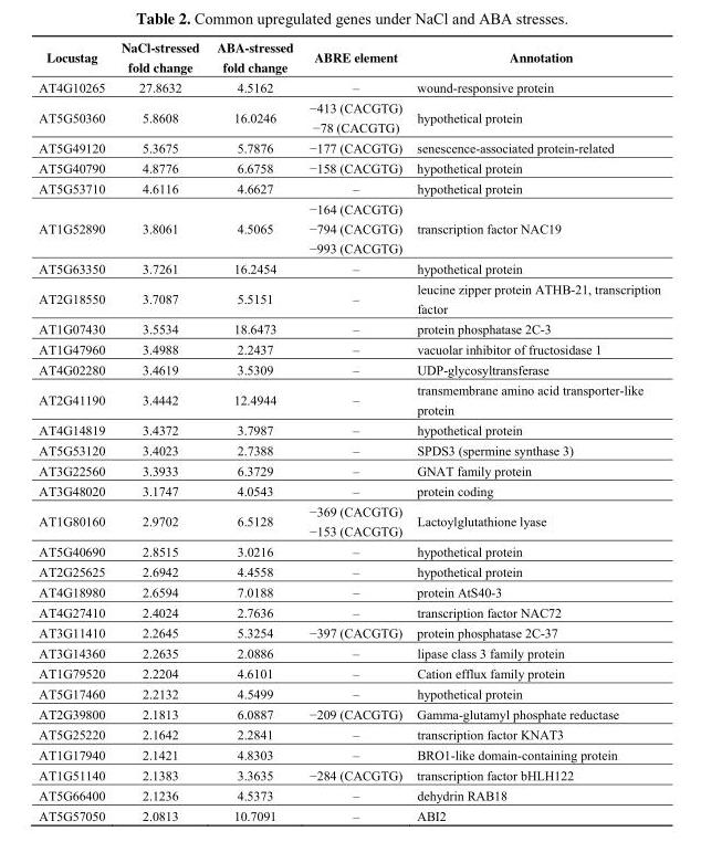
<table><thead><tr><td>Locustag</td><td>NaCl-stressed fold change</td><td>ABA-stressed fold change</td><td>ABRE element</td><td>Annotation</td></tr></thead><tbody><tr><td>AT4G10265</td><td>27.8632</td><td>4.5162</td><td>–</td><td>wound-responsive protein</td></tr><tr><td>AT5G50360</td><td>5.8608</td><td>16.0246</td><td>−413 (CACGTG) −78 (CACGTG)</td><td>hypothetical protein</td></tr><tr><td>AT5G49120</td><td>5.3675</td><td>5.7876</td><td>−177 (CACGTG)</td><td>senescence-associated protein-related</td></tr><tr><td>AT5G40790</td><td>4.8776</td><td>6.6758</td><td>−158 (CACGTG)</td><td>hypothetical protein</td></tr><tr><td>AT5G53710</td><td>4.6116</td><td>4.6627</td><td>–</td><td>hypothetical protein</td></tr><tr><td>AT1G52890</td><td>3.8061</td><td>4.5065</td><td>−164 (CACGTG) −794 (CACGTG) −993 (CACGTG)</td><td>transcription factor NAC19</td></tr><tr><td>AT5G63350</td><td>3.7261</td><td>16.2454</td><td>–</td><td>hypothetical protein</td></tr><tr><td>AT2G18550</td><td>3.7087</td><td>5.5151</td><td>–</td><td>leucine zipper protein ATHB-21, transcription factor</td></tr><tr><td>AT1G07430</td><td>3.5534</td><td>18.6473</td><td>–</td><td>protein phosphatase 2C-3</td></tr><tr><td>AT1G47960</td><td>3.4988</td><td>2.2437</td><td>–</td><td>vacuolar inhibitor of fructosidase 1</td></tr><tr><td>AT4G02280</td><td>3.4619</td><td>3.5309</td><td>–</td><td>UDP-glycosyltransferase</td></tr><tr><td>AT2G41190</td><td>3.4442</td><td>12.4944</td><td>–</td><td>transmembrane amino acid transporter-like protein</td></tr><tr><td>AT4G14819</td><td>3.4372</td><td>3.7987</td><td>–</td><td>hypothetical protein</td></tr><tr><td>AT5G53120</td><td>3.4023</td><td>2.7388</td><td>–</td><td>SPDS3 (spermine synthase 3)</td></tr><tr><td>AT3G22560</td><td>3.3933</td><td>6.3729</td><td>–</td><td>GNAT family protein</td></tr><tr><td>AT3G48020</td><td>3.1747</td><td>4.0543</td><td>–</td><td>protein coding</td></tr><tr><td>AT1G80160</td><td>2.9702</td><td>6.5128</td><td>−369 (CACGTG) −153 (CACGTG)</td><td>Lactoylglutathione lyase</td></tr><tr><td>AT5G40690</td><td>2.8515</td><td>3.0216</td><td>–</td><td>hypothetical protein</td></tr><tr><td>AT2G25625</td><td>2.6942</td><td>4.4558</td><td>–</td><td>hypothetical protein</td></tr><tr><td>AT4G18980</td><td>2.6594</td><td>7.0188</td><td>–</td><td>protein AtS40-3</td></tr><tr><td>AT4G27410</td><td>2.4024</td><td>2.7636</td><td>–</td><td>transcription factor NAC72</td></tr><tr><td>AT3G11410</td><td>2.2645</td><td>5.3254</td><td>−397 (CACGTG)</td><td>protein phosphatase 2C-37</td></tr><tr><td>AT3G14360</td><td>2.2635</td><td>2.0886</td><td>–</td><td>lipase class 3 family protein</td></tr><tr><td>AT1G79520</td><td>2.2204</td><td>4.6101</td><td>–</td><td>Cation efflux family protein</td></tr><tr><td>AT5G17460</td><td>2.2132</td><td>4.5499</td><td>–</td><td>hypothetical protein</td></tr><tr><td>AT2G39800</td><td>2.1813</td><td>6.0887</td><td>−209 (CACGTG)</td><td>Gamma-glutamyl phosphate reductase</td></tr><tr><td>AT5G25220</td><td>2.1642</td><td>2.2841</td><td>–</td><td>transcription factor KNAT3</td></tr><tr><td>AT1G17940</td><td>2.1421</td><td>4.8303</td><td>–</td><td>BRO1-like domain-containing protein</td></tr><tr><td>AT1G51140</td><td>2.1383</td><td>3.3635</td><td>−284 (CACGTG)</td><td>transcription factor bHLH122</td></tr><tr><td>AT5G66400</td><td>2.1236</td><td>4.5373</td><td>–</td><td>dehydrin RAB18</td></tr><tr><td>AT5G57050</td><td>2.0813</td><td>10.7091</td><td>–</td><td>ABI2</td></tr></tbody></table>